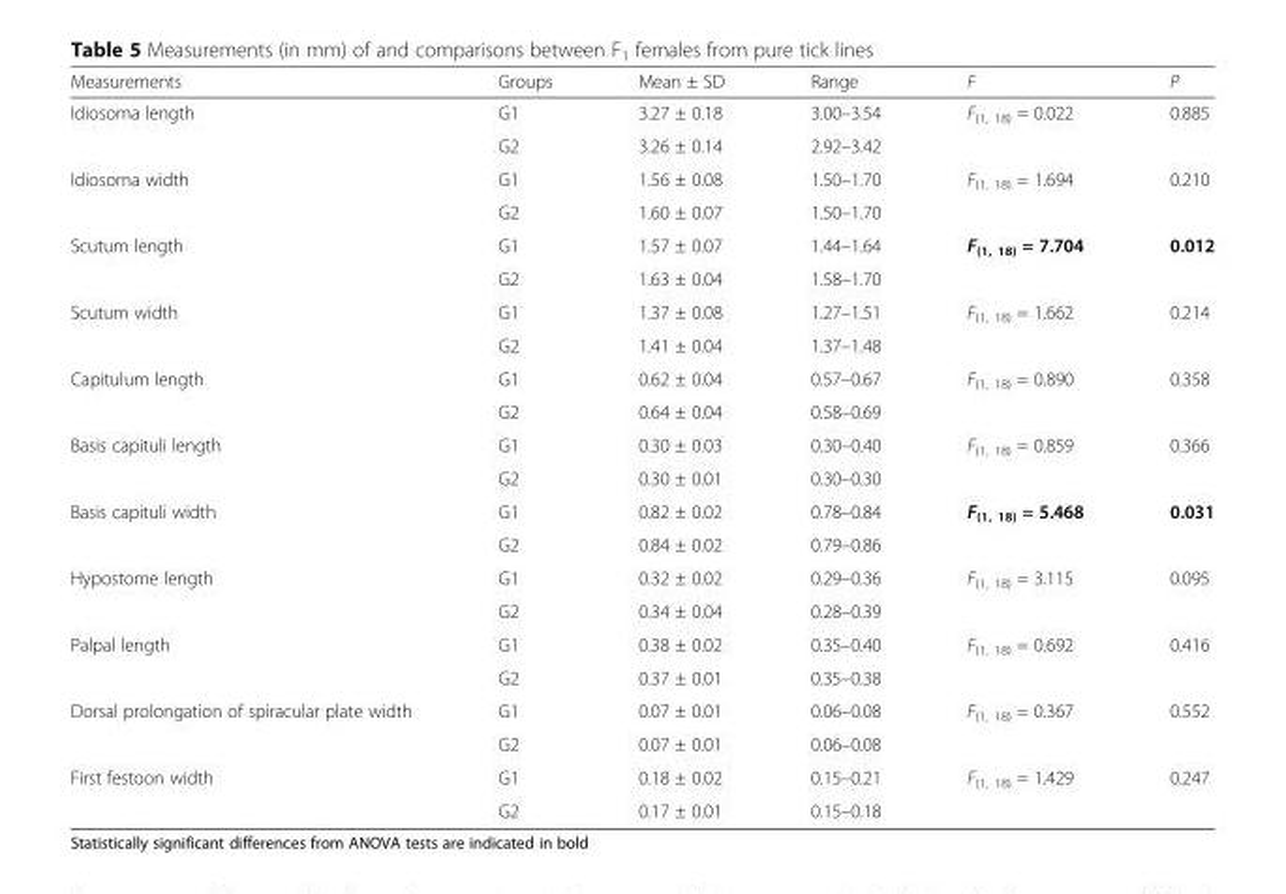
<table><thead><tr><td>Measurements</td><td>Groups</td><td>Mean ± SD</td><td>Range</td><td>F</td><td>P</td></tr></thead><tbody><tr><td rowspan="2">Idiosoma length</td><td>G1</td><td>3.27 ± 0.18</td><td>3.00–3.54</td><td rowspan="2">F<sub>(1, 18)</sub> = 0.022</td><td rowspan="2">0.885</td></tr><tr><td>G2</td><td>3.26 ± 0.14</td><td>2.92–3.42</td></tr><tr><td rowspan="2">Idiosoma width</td><td>G1</td><td>1.56 ± 0.08</td><td>1.50–1.70</td><td rowspan="2">F<sub>(1, 18)</sub> = 1.694</td><td rowspan="2">0.210</td></tr><tr><td>G2</td><td>1.60 ± 0.07</td><td>1.50–1.70</td></tr><tr><td rowspan="2">Scutum length</td><td>G1</td><td>1.57 ± 0.07</td><td>1.44–1.64</td><td rowspan="2">F<sub>(1, 18)</sub> = 7.704</td><td rowspan="2">0.012</td></tr><tr><td>G2</td><td>1.63 ± 0.04</td><td>1.58–1.70</td></tr><tr><td rowspan="2">Scutum width</td><td>G1</td><td>1.37 ± 0.08</td><td>1.27–1.51</td><td rowspan="2">F<sub>(1, 18)</sub> = 1.662</td><td rowspan="2">0.214</td></tr><tr><td>G2</td><td>1.41 ± 0.04</td><td>1.37–1.48</td></tr><tr><td rowspan="2">Capitulum length</td><td>G1</td><td>0.62 ± 0.04</td><td>0.57–0.67</td><td rowspan="2">F<sub>(1, 18)</sub> = 0.890</td><td rowspan="2">0.358</td></tr><tr><td>G2</td><td>0.64 ± 0.04</td><td>0.58–0.69</td></tr><tr><td rowspan="2">Basis capituli length</td><td>G1</td><td>0.30 ± 0.03</td><td>0.30–0.40</td><td rowspan="2">F<sub>(1, 18)</sub> = 0.859</td><td rowspan="2">0.366</td></tr><tr><td>G2</td><td>0.30 ± 0.01</td><td>0.30–0.30</td></tr><tr><td rowspan="2">Basis capituli width</td><td>G1</td><td>0.82 ± 0.02</td><td>0.78–0.84</td><td rowspan="2">F<sub>(1, 18)</sub> = 5.468</td><td rowspan="2">0.031</td></tr><tr><td>G2</td><td>0.84 ± 0.02</td><td>0.79–0.86</td></tr><tr><td rowspan="2">Hypostome length</td><td>G1</td><td>0.32 ± 0.02</td><td>0.29–0.36</td><td rowspan="2">F<sub>(1, 18)</sub> = 3.115</td><td rowspan="2">0.095</td></tr><tr><td>G2</td><td>0.34 ± 0.04</td><td>0.28–0.39</td></tr><tr><td rowspan="2">Palpal length</td><td>G1</td><td>0.38 ± 0.02</td><td>0.35–0.40</td><td rowspan="2">F<sub>(1, 18)</sub> = 0.692</td><td rowspan="2">0.416</td></tr><tr><td>G2</td><td>0.37 ± 0.01</td><td>0.35–0.38</td></tr><tr><td rowspan="2">Dorsal prolongation of spiracular plate width</td><td>G1</td><td>0.07 ± 0.01</td><td>0.06–0.08</td><td rowspan="2">F<sub>(1, 18)</sub> = 0.367</td><td rowspan="2">0.552</td></tr><tr><td>G2</td><td>0.07 ± 0.01</td><td>0.06–0.08</td></tr><tr><td rowspan="2">First festoon width</td><td>G1</td><td>0.18 ± 0.02</td><td>0.15–0.21</td><td rowspan="2">F<sub>(1, 18)</sub> = 1.429</td><td rowspan="2">0.247</td></tr><tr><td>G2</td><td>0.17 ± 0.01</td><td>0.15–0.18</td></tr></tbody></table>